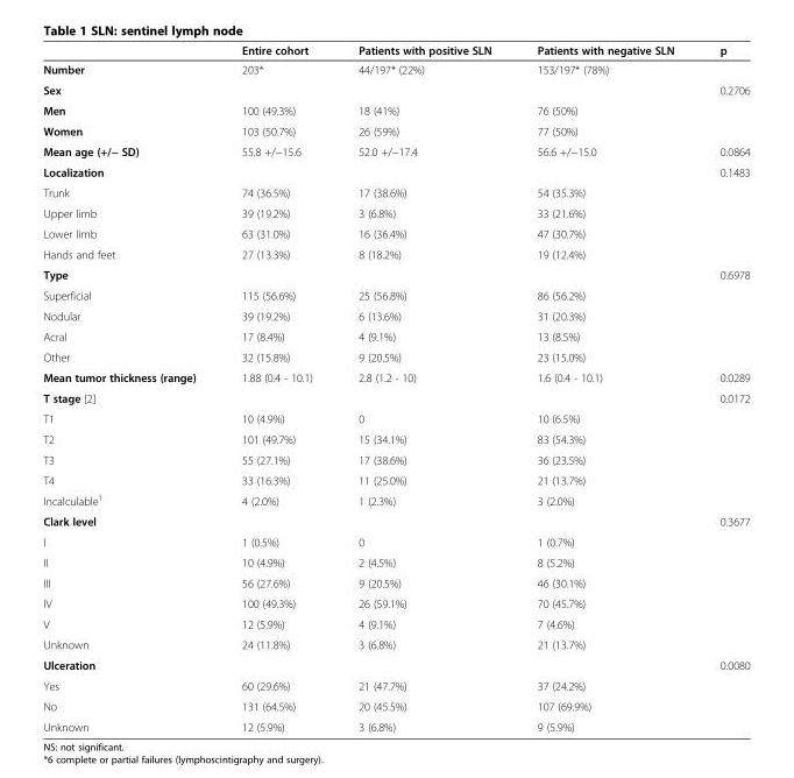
<table><thead><tr><td></td><td>Entire cohort</td><td>Patients with positive SLN</td><td>Patients with negative SLN</td><td>p</td></tr></thead><tbody><tr><td>Number</td><td>203*</td><td>44/197* (22%)</td><td>153/197* (78%)</td><td></td></tr><tr><td>Sex</td><td></td><td></td><td></td><td>0.2706</td></tr><tr><td>Men</td><td>100 (49.3%)</td><td>18 (41%)</td><td>76 (50%)</td><td></td></tr><tr><td>Women</td><td>103 (50.7%)</td><td>26 (59%)</td><td>77 (50%)</td><td></td></tr><tr><td>Mean age (+/− SD)</td><td>55.8 +/−15.6</td><td>52.0 +/−17.4</td><td>56.6 +/−15.0</td><td>0.0864</td></tr><tr><td>Localization</td><td></td><td></td><td></td><td>0.1483</td></tr><tr><td>Trunk</td><td>74 (36.5%)</td><td>17 (38.6%)</td><td>54 (35.3%)</td><td></td></tr><tr><td>Upper limb</td><td>39 (19.2%)</td><td>3 (6.8%)</td><td>33 (21.6%)</td><td></td></tr><tr><td>Lower limb</td><td>63 (31.0%)</td><td>16 (36.4%)</td><td>47 (30.7%)</td><td></td></tr><tr><td>Hands and feet</td><td>27 (13.3%)</td><td>8 (18.2%)</td><td>19 (12.4%)</td><td></td></tr><tr><td>Type</td><td></td><td></td><td></td><td>0.6978</td></tr><tr><td>Superficial</td><td>115 (56.6%)</td><td>25 (56.8%)</td><td>86 (56.2%)</td><td></td></tr><tr><td>Nodular</td><td>39 (19.2%)</td><td>6 (13.6%)</td><td>31 (20.3%)</td><td></td></tr><tr><td>Acral</td><td>17 (8.4%)</td><td>4 (9.1%)</td><td>13 (8.5%)</td><td></td></tr><tr><td>Other</td><td>32 (15.8%)</td><td>9 (20.5%)</td><td>23 (15.0%)</td><td></td></tr><tr><td>Mean tumor thickness (range)</td><td>1.88 (0.4 - 10.1)</td><td>2.8 (1.2 - 10)</td><td>1.6 (0.4 - 10.1)</td><td>0.0289</td></tr><tr><td>T stage [2]</td><td></td><td></td><td></td><td>0.0172</td></tr><tr><td>T1</td><td>10 (4.9%)</td><td>0</td><td>10 (6.5%)</td><td></td></tr><tr><td>T2</td><td>101 (49.7%)</td><td>15 (34.1%)</td><td>83 (54.3%)</td><td></td></tr><tr><td>T3</td><td>55 (27.1%)</td><td>17 (38.6%)</td><td>36 (23.5%)</td><td></td></tr><tr><td>T4</td><td>33 (16.3%)</td><td>11 (25.0%)</td><td>21 (13.7%)</td><td></td></tr><tr><td>Incalculable<sup>1</sup></td><td>4 (2.0%)</td><td>1 (2.3%)</td><td>3 (2.0%)</td><td></td></tr><tr><td>Clark level</td><td></td><td></td><td></td><td>0.3677</td></tr><tr><td>I</td><td>1 (0.5%)</td><td>0</td><td>1 (0.7%)</td><td></td></tr><tr><td>II</td><td>10 (4.9%)</td><td>2 (4.5%)</td><td>8 (5.2%)</td><td></td></tr><tr><td>III</td><td>56 (27.6%)</td><td>9 (20.5%)</td><td>46 (30.1%)</td><td></td></tr><tr><td>IV</td><td>100 (49.3%)</td><td>26 (59.1%)</td><td>70 (45.7%)</td><td></td></tr><tr><td>V</td><td>12 (5.9%)</td><td>4 (9.1%)</td><td>7 (4.6%)</td><td></td></tr><tr><td>Unknown</td><td>24 (11.8%)</td><td>3 (6.8%)</td><td>21 (13.7%)</td><td></td></tr><tr><td>Ulceration</td><td></td><td></td><td></td><td>0.0080</td></tr><tr><td>Yes</td><td>60 (29.6%)</td><td>21 (47.7%)</td><td>37 (24.2%)</td><td></td></tr><tr><td>No</td><td>131 (64.5%)</td><td>20 (45.5%)</td><td>107 (69.9%)</td><td></td></tr><tr><td>Unknown</td><td>12 (5.9%)</td><td>3 (6.8%)</td><td>9 (5.9%)</td><td></td></tr></tbody></table>